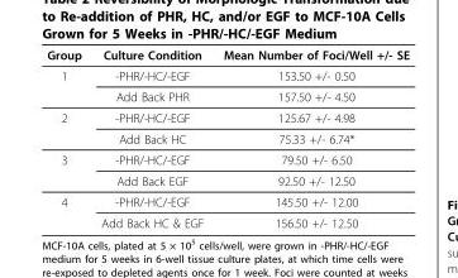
<table><thead><tr><td>Group</td><td>Culture Condition</td><td>Mean Number of Foci/Well +/- SE</td></tr></thead><tbody><tr><td rowspan="2">1</td><td>-PHR/-HC/-EGF</td><td>153.50 +/- 0.50</td></tr><tr><td>Add Back PHR</td><td>157.50 +/- 4.50</td></tr><tr><td rowspan="2">2</td><td>-PHR/-HC/-EGF</td><td>125.67 +/- 4.98</td></tr><tr><td>Add Back HC</td><td>75.33 +/- 6.74*</td></tr><tr><td rowspan="2">3</td><td>-PHR/-HC/-EGF</td><td>79.50 +/- 6.50</td></tr><tr><td>Add Back EGF</td><td>92.50 +/- 12.50</td></tr><tr><td rowspan="2">4</td><td>-PHR/-HC/-EGF</td><td>145.50 +/- 12.00</td></tr><tr><td>Add Back HC &amp; EGF</td><td>156.50 +/- 12.50</td></tr></tbody></table>